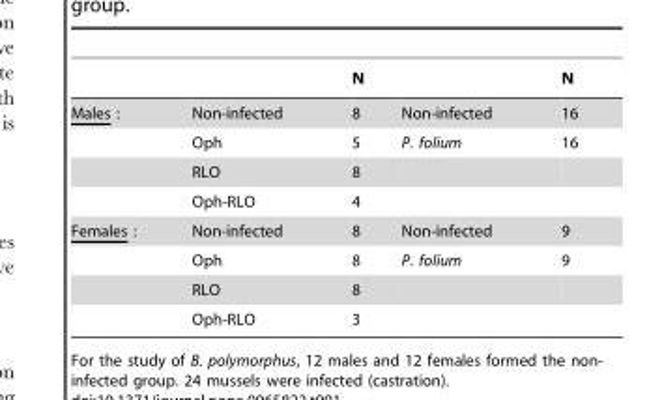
<table><thead><tr><td></td><td></td><td>N</td><td></td><td>N</td></tr></thead><tbody><tr><td rowspan="4">Males :</td><td>Non-infected</td><td>8</td><td>Non-infected</td><td>16</td></tr><tr><td>Oph</td><td>5</td><td>P. folium</td><td>16</td></tr><tr><td>RLO</td><td>8</td><td></td><td></td></tr><tr><td>Oph-RLO</td><td>4</td><td></td><td></td></tr><tr><td rowspan="4">Females :</td><td>Non-infected</td><td>8</td><td>Non-infected</td><td>9</td></tr><tr><td>Oph</td><td>8</td><td>P. folium</td><td>9</td></tr><tr><td>RLO</td><td>8</td><td></td><td></td></tr><tr><td>Oph-RLO</td><td>3</td><td></td><td></td></tr></tbody></table>